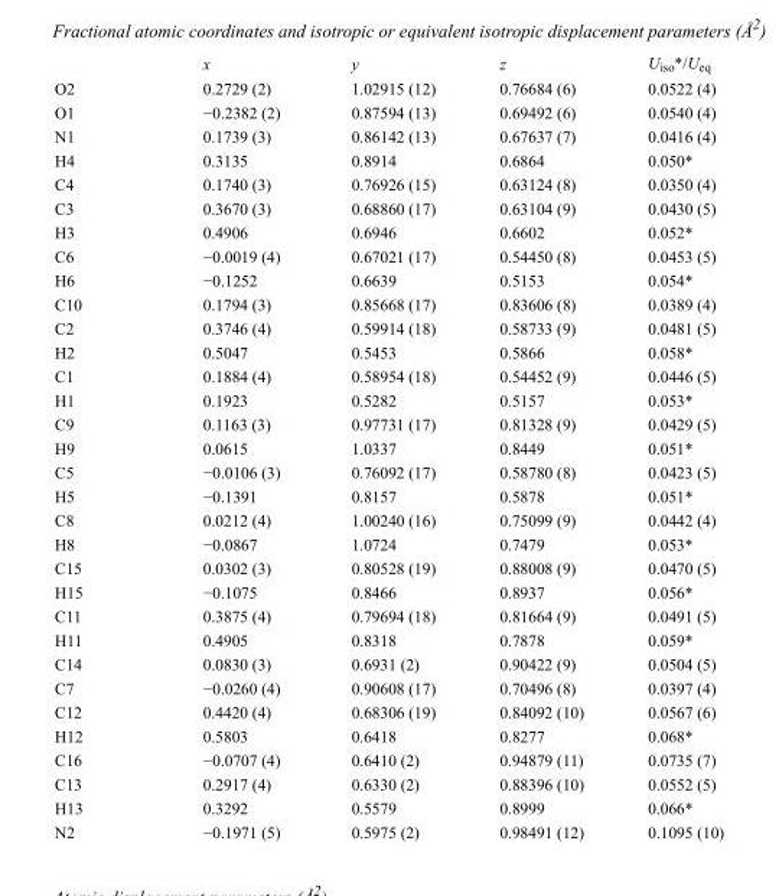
<table><thead><tr><td></td><td>x</td><td>y</td><td>z</td><td>U<sub>iso</sub>*/U<sub>eq</sub></td></tr></thead><tbody><tr><td>O2</td><td>0.2729 (2)</td><td>1.02915 (12)</td><td>0.76684 (6)</td><td>0.0522 (4)</td></tr><tr><td>O1</td><td>−0.2382 (2)</td><td>0.87594 (13)</td><td>0.69492 (6)</td><td>0.0540 (4)</td></tr><tr><td>N1</td><td>0.1739 (3)</td><td>0.86142 (13)</td><td>0.67637 (7)</td><td>0.0416 (4)</td></tr><tr><td>H4</td><td>0.3135</td><td>0.8914</td><td>0.6864</td><td>0.050*</td></tr><tr><td>C4</td><td>0.1740 (3)</td><td>0.76926 (15)</td><td>0.63124 (8)</td><td>0.0350 (4)</td></tr><tr><td>C3</td><td>0.3670 (3)</td><td>0.68860 (17)</td><td>0.63104 (9)</td><td>0.0430 (5)</td></tr><tr><td>H3</td><td>0.4906</td><td>0.6946</td><td>0.6602</td><td>0.052*</td></tr><tr><td>C6</td><td>−0.0019 (4)</td><td>0.67021 (17)</td><td>0.54450 (8)</td><td>0.0453 (5)</td></tr><tr><td>H6</td><td>−0.1252</td><td>0.6639</td><td>0.5153</td><td>0.054*</td></tr><tr><td>C10</td><td>0.1794 (3)</td><td>0.85668 (17)</td><td>0.83606 (8)</td><td>0.0389 (4)</td></tr><tr><td>C2</td><td>0.3746 (4)</td><td>0.59914 (18)</td><td>0.58733 (9)</td><td>0.0481 (5)</td></tr><tr><td>H2</td><td>0.5047</td><td>0.5453</td><td>0.5866</td><td>0.058*</td></tr><tr><td>C1</td><td>0.1884 (4)</td><td>0.58954 (18)</td><td>0.54452 (9)</td><td>0.0446 (5)</td></tr><tr><td>H1</td><td>0.1923</td><td>0.5282</td><td>0.5157</td><td>0.053*</td></tr><tr><td>C9</td><td>0.1163 (3)</td><td>0.97731 (17)</td><td>0.81328 (9)</td><td>0.0429 (5)</td></tr><tr><td>H9</td><td>0.0615</td><td>1.0337</td><td>0.8449</td><td>0.051*</td></tr><tr><td>C5</td><td>−0.0106 (3)</td><td>0.76092 (17)</td><td>0.58780 (8)</td><td>0.0423 (5)</td></tr><tr><td>H5</td><td>−0.1391</td><td>0.8157</td><td>0.5878</td><td>0.051*</td></tr><tr><td>C8</td><td>0.0212 (4)</td><td>1.00240 (16)</td><td>0.75099 (9)</td><td>0.0442 (4)</td></tr><tr><td>H8</td><td>−0.0867</td><td>1.0724</td><td>0.7479</td><td>0.053*</td></tr><tr><td>C15</td><td>0.0302 (3)</td><td>0.80528 (19)</td><td>0.88008 (9)</td><td>0.0470 (5)</td></tr><tr><td>H15</td><td>−0.1075</td><td>0.8466</td><td>0.8937</td><td>0.056*</td></tr><tr><td>C11</td><td>0.3875 (4)</td><td>0.79694 (18)</td><td>0.81664 (9)</td><td>0.0491 (5)</td></tr><tr><td>H11</td><td>0.4905</td><td>0.8318</td><td>0.7878</td><td>0.059*</td></tr><tr><td>C14</td><td>0.0830 (3)</td><td>0.6931 (2)</td><td>0.90422 (9)</td><td>0.0504 (5)</td></tr><tr><td>C7</td><td>−0.0260 (4)</td><td>0.90608 (17)</td><td>0.70496 (8)</td><td>0.0397 (4)</td></tr><tr><td>C12</td><td>0.4420 (4)</td><td>0.68306 (19)</td><td>0.84092 (10)</td><td>0.0567 (6)</td></tr><tr><td>H12</td><td>0.5803</td><td>0.6418</td><td>0.8277</td><td>0.068*</td></tr><tr><td>C16</td><td>−0.0707 (4)</td><td>0.6410 (2)</td><td>0.94879 (11)</td><td>0.0735 (7)</td></tr><tr><td>C13</td><td>0.2917 (4)</td><td>0.6330 (2)</td><td>0.88396 (10)</td><td>0.0552 (5)</td></tr><tr><td>H13</td><td>0.3292</td><td>0.5579</td><td>0.8999</td><td>0.066*</td></tr><tr><td>N2</td><td>−0.1971 (5)</td><td>0.5975 (2)</td><td>0.98491 (12)</td><td>0.1095 (10)</td></tr></tbody></table>